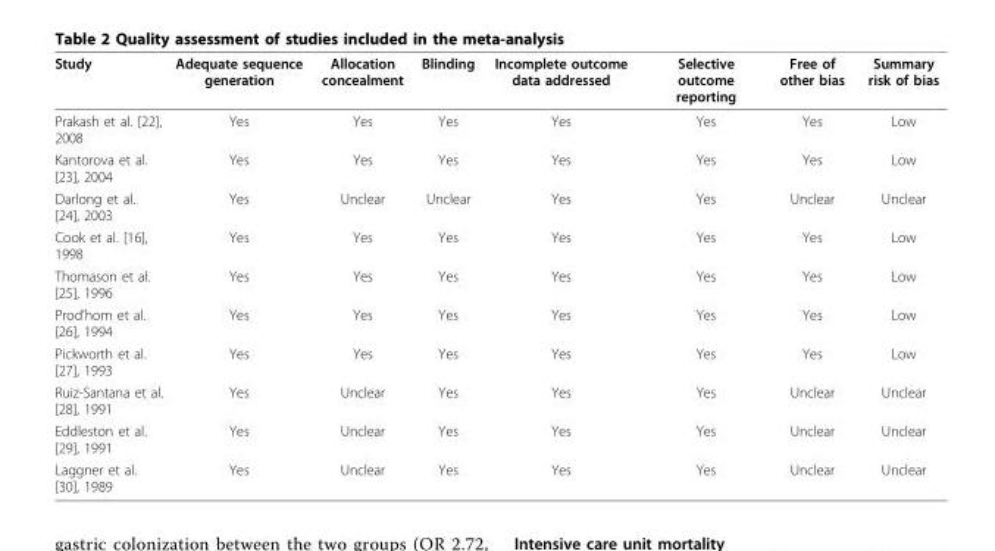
<table><thead><tr><td>Study</td><td>Adequate sequence generation</td><td>Allocation concealment</td><td>Blinding</td><td>Incomplete outcome data addressed</td><td>Selective outcome reporting</td><td>Free of other bias</td><td>Summary risk of bias</td></tr></thead><tbody><tr><td>Prakash et al. [22], 2008</td><td>Yes</td><td>Yes</td><td>Yes</td><td>Yes</td><td>Yes</td><td>Yes</td><td>Low</td></tr><tr><td>Kantorova et al. [23], 2004</td><td>Yes</td><td>Yes</td><td>Yes</td><td>Yes</td><td>Yes</td><td>Yes</td><td>Low</td></tr><tr><td>Darlong et al. [24], 2003</td><td>Yes</td><td>Unclear</td><td>Unclear</td><td>Yes</td><td>Yes</td><td>Unclear</td><td>Unclear</td></tr><tr><td>Cook et al. [16], 1998</td><td>Yes</td><td>Yes</td><td>Yes</td><td>Yes</td><td>Yes</td><td>Yes</td><td>Low</td></tr><tr><td>Thomason et al. [25], 1996</td><td>Yes</td><td>Yes</td><td>Yes</td><td>Yes</td><td>Yes</td><td>Yes</td><td>Low</td></tr><tr><td>Prod’hom et al. [26], 1994</td><td>Yes</td><td>Yes</td><td>Yes</td><td>Yes</td><td>Yes</td><td>Yes</td><td>Low</td></tr><tr><td>Pickworth et al. [27], 1993</td><td>Yes</td><td>Yes</td><td>Yes</td><td>Yes</td><td>Yes</td><td>Yes</td><td>Low</td></tr><tr><td>Ruiz-Santana et al. [28], 1991</td><td>Yes</td><td>Unclear</td><td>Yes</td><td>Yes</td><td>Yes</td><td>Unclear</td><td>Unclear</td></tr><tr><td>Eddleston et al. [29], 1991</td><td>Yes</td><td>Unclear</td><td>Yes</td><td>Yes</td><td>Yes</td><td>Unclear</td><td>Unclear</td></tr><tr><td>Laggner et al. [30], 1989</td><td>Yes</td><td>Unclear</td><td>Yes</td><td>Yes</td><td>Yes</td><td>Unclear</td><td>Unclear</td></tr></tbody></table>